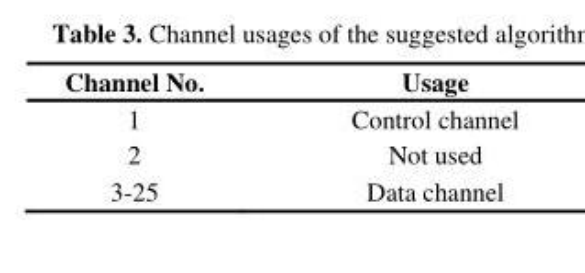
<table><thead><tr><td>Channel No.</td><td>Usage</td></tr></thead><tbody><tr><td>1</td><td>Control channel</td></tr><tr><td>2</td><td>Not used</td></tr><tr><td>3-25</td><td>Data channel</td></tr></tbody></table>